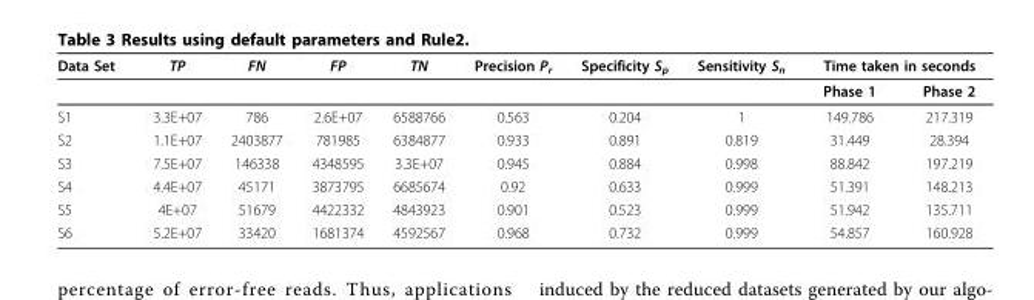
<table><thead><tr><td rowspan="2">Data Set</td><td rowspan="2">TP</td><td rowspan="2">FN</td><td rowspan="2">FP</td><td rowspan="2">TN</td><td rowspan="2">Precision P<sub>r</sub></td><td rowspan="2">Specificity S<sub>p</sub></td><td rowspan="2">Sensitivity S<sub>n</sub></td><td colspan="2">Time taken in seconds</td></tr><tr><td>Phase 1</td><td>Phase 2</td></tr></thead><tbody><tr><td>S1</td><td>3.3E+07</td><td>786</td><td>2.6E+07</td><td>6588766</td><td>0.563</td><td>0.204</td><td>1</td><td>149.786</td><td>217.319</td></tr><tr><td>S2</td><td>1.1E+07</td><td>2403877</td><td>781985</td><td>6384877</td><td>0.933</td><td>0.891</td><td>0.819</td><td>31.449</td><td>28.394</td></tr><tr><td>S3</td><td>7.5E+07</td><td>146338</td><td>4348595</td><td>3.3E+07</td><td>0.945</td><td>0.884</td><td>0.998</td><td>88.842</td><td>197.219</td></tr><tr><td>S4</td><td>4.4E+07</td><td>45171</td><td>3873795</td><td>6685674</td><td>0.92</td><td>0.633</td><td>0.999</td><td>51.391</td><td>148.213</td></tr><tr><td>S5</td><td>4E+07</td><td>51679</td><td>4422332</td><td>4843923</td><td>0.901</td><td>0.523</td><td>0.999</td><td>51.942</td><td>135.711</td></tr><tr><td>S6</td><td>5.2E+07</td><td>33420</td><td>1681374</td><td>4592567</td><td>0.968</td><td>0.732</td><td>0.999</td><td>54.857</td><td>160.928</td></tr></tbody></table>